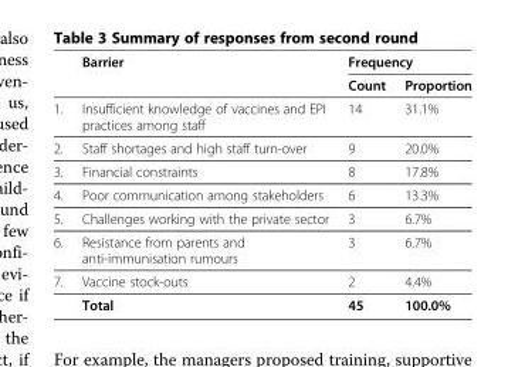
<table><thead><tr><td rowspan="2"></td><td rowspan="2">Barrier</td><td colspan="2">Frequency</td></tr><tr><td>Count</td><td>Proportion</td></tr></thead><tbody><tr><td>1.</td><td>Insufficient knowledge of vaccines and EPI practices among staff</td><td>14</td><td>31.1%</td></tr><tr><td>2.</td><td>Staff shortages and high staff turn-over</td><td>9</td><td>20.0%</td></tr><tr><td>3.</td><td>Financial constraints</td><td>8</td><td>17.8%</td></tr><tr><td>4.</td><td>Poor communication among stakeholders</td><td>6</td><td>13.3%</td></tr><tr><td>5.</td><td>Challenges working with the private sector</td><td>3</td><td>6.7%</td></tr><tr><td>6.</td><td>Resistance from parents and anti-immunisation rumours</td><td>3</td><td>6.7%</td></tr><tr><td rowspan="2">7.</td><td>Vaccine stock-outs</td><td>2</td><td>4.4%</td></tr><tr><td>Total</td><td>45</td><td>100.0%</td></tr></tbody></table>